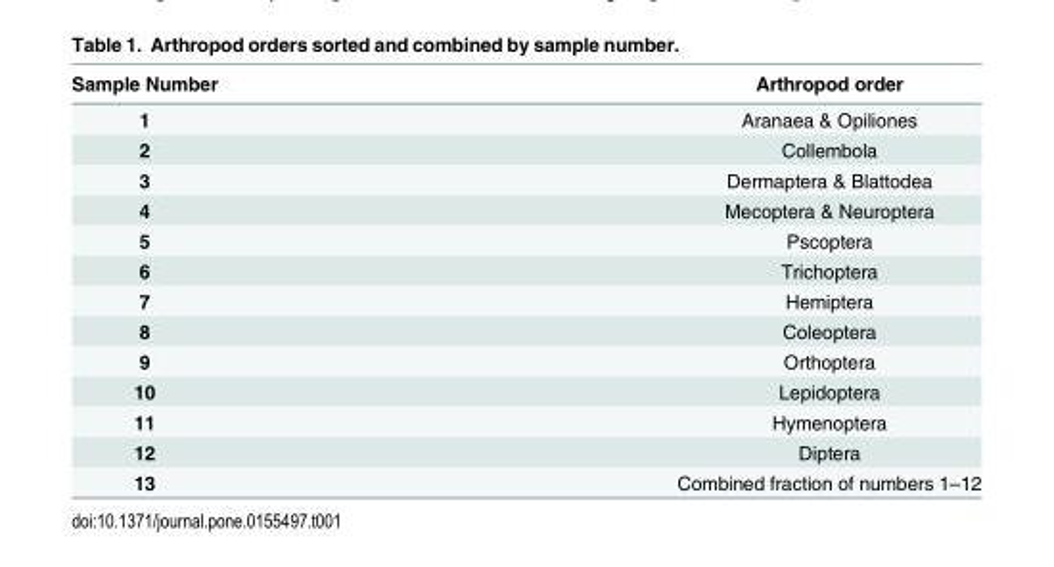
<table><thead><tr><td>Sample Number</td><td>Arthropod order</td></tr></thead><tbody><tr><td>1</td><td>Aranaea &amp; Opiliones</td></tr><tr><td>2</td><td>Collembola</td></tr><tr><td>3</td><td>Dermaptera &amp; Blattodea</td></tr><tr><td>4</td><td>Mecoptera &amp; Neuroptera</td></tr><tr><td>5</td><td>Pscoptera</td></tr><tr><td>6</td><td>Trichoptera</td></tr><tr><td>7</td><td>Hemiptera</td></tr><tr><td>8</td><td>Coleoptera</td></tr><tr><td>9</td><td>Orthoptera</td></tr><tr><td>10</td><td>Lepidoptera</td></tr><tr><td>11</td><td>Hymenoptera</td></tr><tr><td>12</td><td>Diptera</td></tr><tr><td>13</td><td>Combined fraction of numbers 1–12</td></tr></tbody></table>